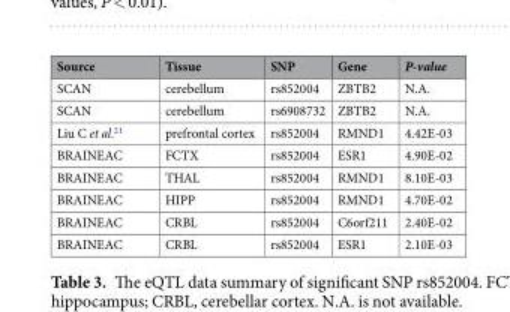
<table><thead><tr><td>Source</td><td>Tissue</td><td>SNP</td><td>Gene</td><td>P-value</td></tr></thead><tbody><tr><td>SCAN</td><td>cerebellum</td><td>rs852004</td><td>ZBTB2</td><td>N.A.</td></tr><tr><td>SCAN</td><td>cerebellum</td><td>rs6908732</td><td>ZBTB2</td><td>N.A.</td></tr><tr><td>Liu C et al.<sup>21</sup></td><td>prefrontal cortex</td><td>rs852004</td><td>RMND1</td><td>4.42E-03</td></tr><tr><td>BRAINEAC</td><td>FCTX</td><td>rs852004</td><td>ESR1</td><td>4.90E-02</td></tr><tr><td>BRAINEAC</td><td>THAL</td><td>rs852004</td><td>RMND1</td><td>8.10E-03</td></tr><tr><td>BRAINEAC</td><td>HIPP</td><td>rs852004</td><td>RMND1</td><td>4.70E-02</td></tr><tr><td>BRAINEAC</td><td>CRBL</td><td>rs852004</td><td>C6orf211</td><td>2.40E-02</td></tr><tr><td>BRAINEAC</td><td>CRBL</td><td>rs852004</td><td>ESR1</td><td>2.10E-03</td></tr></tbody></table>